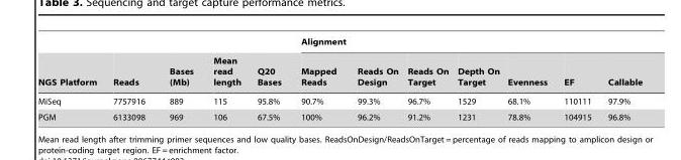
<table><thead><tr><td rowspan="2">NGS Platform</td><td rowspan="2">Reads</td><td rowspan="2">Bases (Mb)</td><td rowspan="2">Mean read length</td><td rowspan="2">Q20 Bases</td><td colspan="7">Alignment</td></tr><tr><td>Mapped Reads</td><td>Reads On Design</td><td>Reads On Target</td><td>Depth On Target</td><td>Evenness</td><td>EF</td><td>Callable</td></tr></thead><tbody><tr><td>MiSeq</td><td>7757916</td><td>889</td><td>115</td><td>95.8%</td><td>90.7%</td><td>99.3%</td><td>96.7%</td><td>1529</td><td>68.1%</td><td>110111</td><td>97.9%</td></tr><tr><td>PGM</td><td>6133098</td><td>969</td><td>106</td><td>67.5%</td><td>100%</td><td>96.2%</td><td>91.2%</td><td>1231</td><td>78.8%</td><td>104915</td><td>96.8%</td></tr></tbody></table>